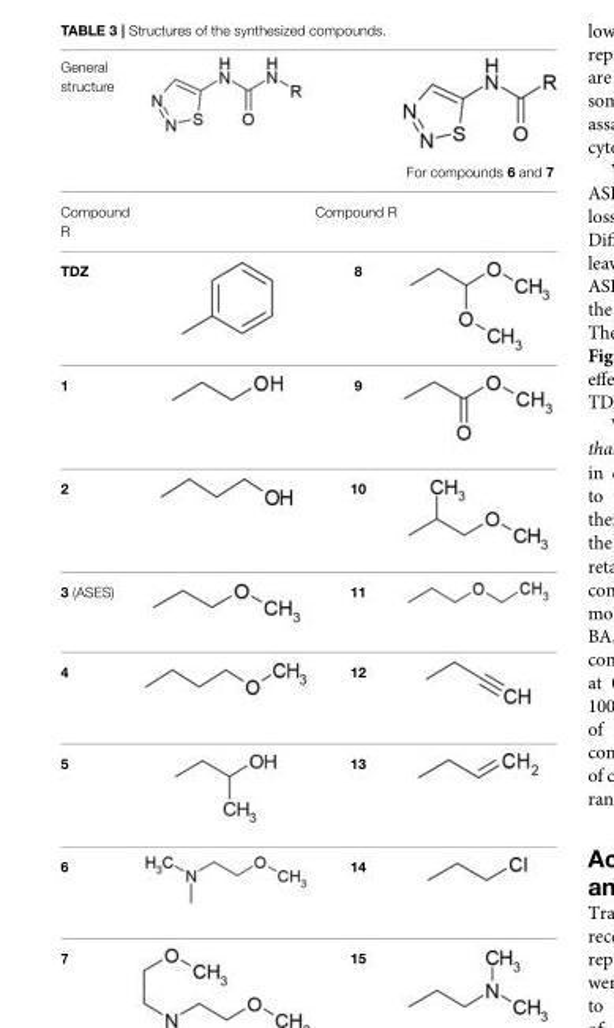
<table><tbody><tr><td colspan="3">General structure</td></tr><tr><td></td><td></td><td>For compounds 6 and 7</td></tr><tr><td>Compound R</td><td>Compound R</td><td></td></tr><tr><td>TDZ</td><td>8</td><td></td></tr><tr><td>1</td><td>9</td><td></td></tr><tr><td>2</td><td>10</td><td></td></tr><tr><td>3 (ASES)</td><td>11</td><td></td></tr><tr><td>4</td><td>12</td><td></td></tr><tr><td>5</td><td>13</td><td></td></tr><tr><td>6</td><td>14</td><td></td></tr><tr><td>7</td><td>15</td><td></td></tr></tbody></table>